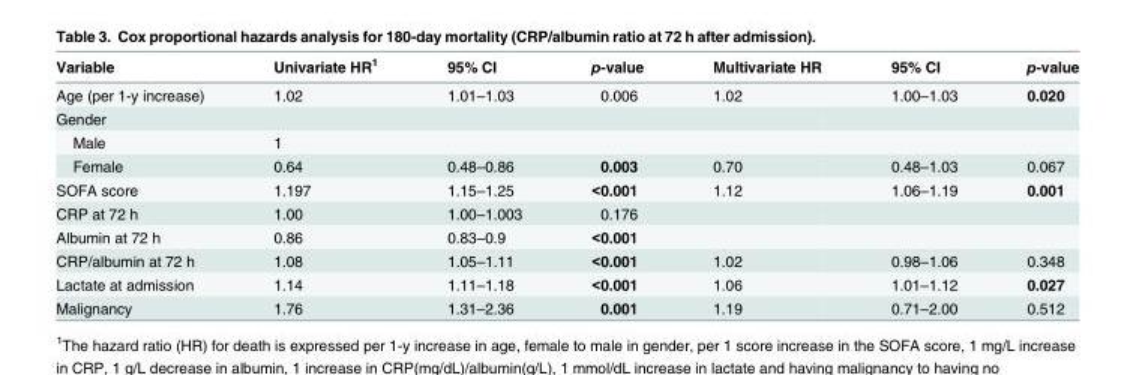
<table><thead><tr><td>Variable</td><td>Univariate HR<sup>1</sup></td><td>95% CI</td><td>p-value</td><td>Multivariate HR</td><td>95% CI</td><td>p-value</td></tr></thead><tbody><tr><td>Age (per 1-y increase)</td><td>1.02</td><td>1.01–1.03</td><td>0.006</td><td>1.02</td><td>1.00–1.03</td><td>0.020</td></tr><tr><td colspan="7">Gender</td></tr><tr><td>Male</td><td>1</td><td></td><td></td><td></td><td></td><td></td></tr><tr><td>Female</td><td>0.64</td><td>0.48–0.86</td><td>0.003</td><td>0.70</td><td>0.48–1.03</td><td>0.067</td></tr><tr><td>SOFA score</td><td>1.197</td><td>1.15–1.25</td><td>&lt;0.001</td><td>1.12</td><td>1.06–1.19</td><td>0.001</td></tr><tr><td>CRP at 72 h</td><td>1.00</td><td>1.00–1.003</td><td>0.176</td><td></td><td></td><td></td></tr><tr><td>Albumin at 72 h</td><td>0.86</td><td>0.83–0.9</td><td>&lt;0.001</td><td></td><td></td><td></td></tr><tr><td>CRP/albumin at 72 h</td><td>1.08</td><td>1.05–1.11</td><td>&lt;0.001</td><td>1.02</td><td>0.98–1.06</td><td>0.348</td></tr><tr><td>Lactate at admission</td><td>1.14</td><td>1.11–1.18</td><td>&lt;0.001</td><td>1.06</td><td>1.01–1.12</td><td>0.027</td></tr><tr><td>Malignancy</td><td>1.76</td><td>1.31–2.36</td><td>0.001</td><td>1.19</td><td>0.71–2.00</td><td>0.512</td></tr></tbody></table>